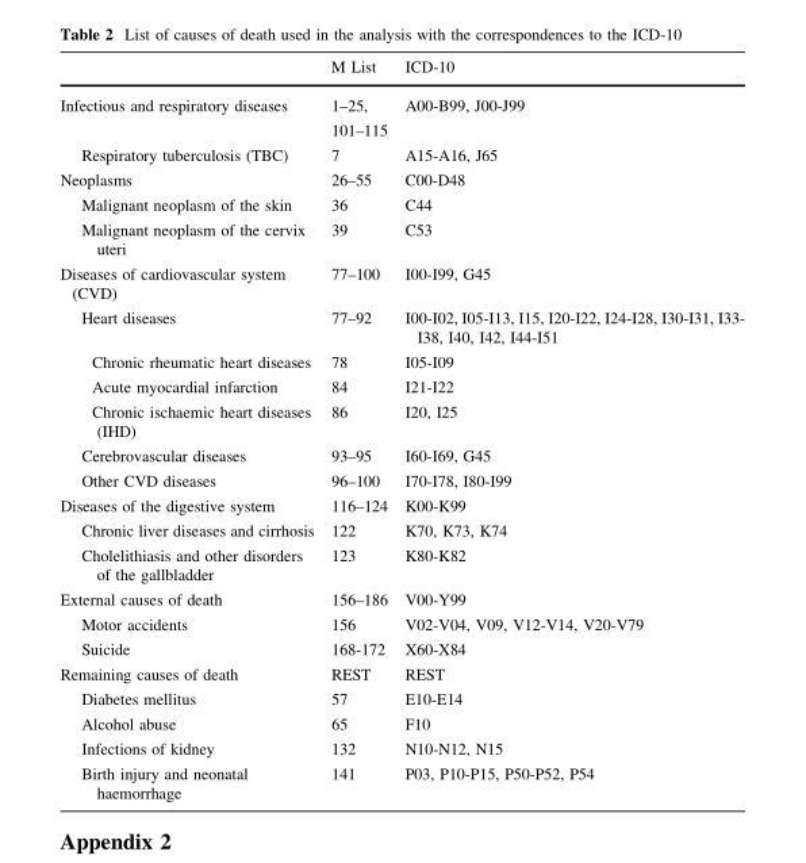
<table><thead><tr><td></td><td>M List</td><td>ICD-10</td></tr></thead><tbody><tr><td>Infectious and respiratory diseases</td><td>1–25, 101–115</td><td>A00-B99, J00-J99</td></tr><tr><td>Respiratory tuberculosis (TBC)</td><td>7</td><td>A15-A16, J65</td></tr><tr><td>Neoplasms</td><td>26–55</td><td>C00-D48</td></tr><tr><td>Malignant neoplasm of the skin</td><td>36</td><td>C44</td></tr><tr><td>Malignant neoplasm of the cervix uteri</td><td>39</td><td>C53</td></tr><tr><td>Diseases of cardiovascular system (CVD)</td><td>77–100</td><td>I00-I99, G45</td></tr><tr><td>Heart diseases</td><td>77–92</td><td>I00-I02, I05-I13, I15, I20-I22, I24-I28, I30-I31, I33- I38, I40, I42, I44-I51</td></tr><tr><td>Chronic rheumatic heart diseases</td><td>78</td><td>I05-I09</td></tr><tr><td>Acute myocardial infarction</td><td>84</td><td>I21-I22</td></tr><tr><td>Chronic ischaemic heart diseases (IHD)</td><td>86</td><td>I20, I25</td></tr><tr><td>Cerebrovascular diseases</td><td>93–95</td><td>I60-I69, G45</td></tr><tr><td>Other CVD diseases</td><td>96–100</td><td>I70-I78, I80-I99</td></tr><tr><td>Diseases of the digestive system</td><td>116–124</td><td>K00-K99</td></tr><tr><td>Chronic liver diseases and cirrhosis</td><td>122</td><td>K70, K73, K74</td></tr><tr><td>Cholelithiasis and other disorders of the gallbladder</td><td>123</td><td>K80-K82</td></tr><tr><td>External causes of death</td><td>156–186</td><td>V00-Y99</td></tr><tr><td>Motor accidents</td><td>156</td><td>V02-V04, V09, V12-V14, V20-V79</td></tr><tr><td>Suicide</td><td>168-172</td><td>X60-X84</td></tr><tr><td>Remaining causes of death</td><td>REST</td><td>REST</td></tr><tr><td>Diabetes mellitus</td><td>57</td><td>E10-E14</td></tr><tr><td>Alcohol abuse</td><td>65</td><td>F10</td></tr><tr><td>Infections of kidney</td><td>132</td><td>N10-N12, N15</td></tr><tr><td>Birth injury and neonatal haemorrhage</td><td>141</td><td>P03, P10-P15, P50-P52, P54</td></tr></tbody></table>